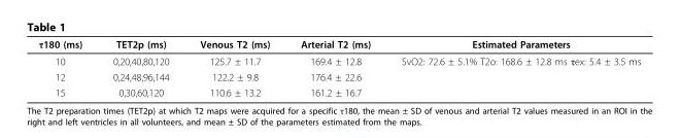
<table><thead><tr><td>τ180 (ms)</td><td>TET2p (ms)</td><td>Venous T2 (ms)</td><td>Arterial T2 (ms)</td><td>Estimated Parameters</td></tr></thead><tbody><tr><td>10</td><td>0,20,40,80,120</td><td>125.7 ± 11.7</td><td>169.4 ± 12.8</td><td>SvO2: 72.6 ± 5.1% T2o: 168.6 ± 12.8 ms τex: 5.4 ± 3.5 ms</td></tr><tr><td>12</td><td>0,24,48,96,144</td><td>122.2 ± 9.8</td><td>176.4 ± 22.6</td><td></td></tr><tr><td>15</td><td>0,30,60,120</td><td>110.6 ± 13.2</td><td>161.2 ± 16.7</td><td></td></tr></tbody></table>